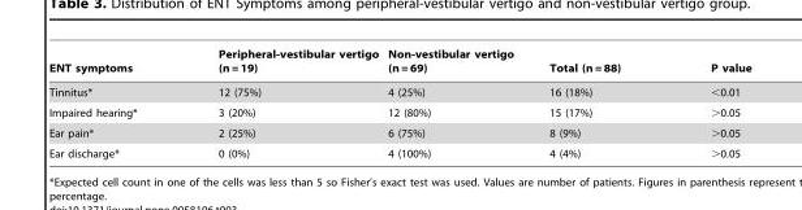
<table><thead><tr><td>ENT symptoms</td><td>Peripheral-vestibular vertigo (n = 19)</td><td>Non-vestibular vertigo (n = 69)</td><td>Total (n = 88)</td><td>P value</td></tr></thead><tbody><tr><td>Tinnitus*</td><td>12 (75%)</td><td>4 (25%)</td><td>16 (18%)</td><td>&lt;0.01</td></tr><tr><td>Impaired hearing*</td><td>3 (20%)</td><td>12 (80%)</td><td>15 (17%)</td><td>&gt;0.05</td></tr><tr><td>Ear pain*</td><td>2 (25%)</td><td>6 (75%)</td><td>8 (9%)</td><td>&gt;0.05</td></tr><tr><td>Ear discharge*</td><td>0 (0%)</td><td>4 (100%)</td><td>4 (4%)</td><td>&gt;0.05</td></tr></tbody></table>